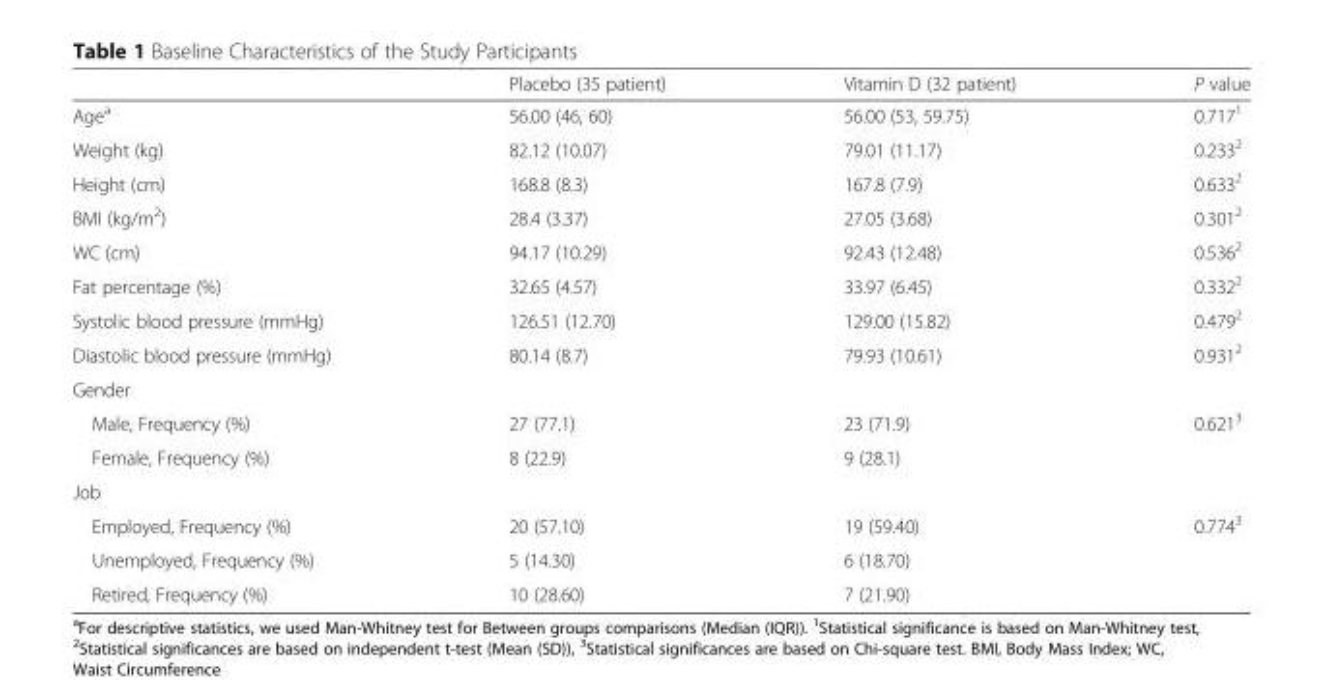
<table><thead><tr><td></td><td>Placebo (35 patient)</td><td>Vitamin D (32 patient)</td><td>P value</td></tr></thead><tbody><tr><td>Age<sup>a</sup></td><td>56.00 (46, 60)</td><td>56.00 (53, 59.75)</td><td>0.717<sup>1</sup></td></tr><tr><td>Weight (kg)</td><td>82.12 (10.07)</td><td>79.01 (11.17)</td><td>0.233<sup>2</sup></td></tr><tr><td>Height (cm)</td><td>168.8 (8.3)</td><td>167.8 (7.9)</td><td>0.633<sup>2</sup></td></tr><tr><td>BMI (kg/m<sup>2</sup>)</td><td>28.4 (3.37)</td><td>27.05 (3.68)</td><td>0.301<sup>2</sup></td></tr><tr><td>WC (cm)</td><td>94.17 (10.29)</td><td>92.43 (12.48)</td><td>0.536<sup>2</sup></td></tr><tr><td>Fat percentage (%)</td><td>32.65 (4.57)</td><td>33.97 (6.45)</td><td>0.332<sup>2</sup></td></tr><tr><td>Systolic blood pressure (mmHg)</td><td>126.51 (12.70)</td><td>129.00 (15.82)</td><td>0.479<sup>2</sup></td></tr><tr><td>Diastolic blood pressure (mmHg)</td><td>80.14 (8.7)</td><td>79.93 (10.61)</td><td>0.931<sup>2</sup></td></tr><tr><td colspan="4">Gender</td></tr><tr><td>Male, Frequency (%)</td><td>27 (77.1)</td><td>23 (71.9)</td><td rowspan="2">0.621<sup>3</sup></td></tr><tr><td>Female, Frequency (%)</td><td>8 (22.9)</td><td>9 (28.1)</td></tr><tr><td colspan="4">Job</td></tr><tr><td>Employed, Frequency (%)</td><td>20 (57.10)</td><td>19 (59.40)</td><td rowspan="3">0.774<sup>3</sup></td></tr><tr><td>Unemployed, Frequency (%)</td><td>5 (14.30)</td><td>6 (18.70)</td></tr><tr><td>Retired, Frequency (%)</td><td>10 (28.60)</td><td>7 (21.90)</td></tr></tbody></table>